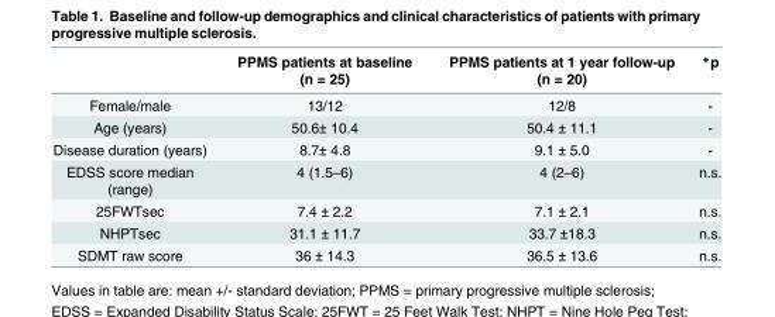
<table><thead><tr><td></td><td>PPMS patients at baseline (n = 25)</td><td>PPMS patients at 1 year follow-up (n = 20)</td><td>*p</td></tr></thead><tbody><tr><td>Female/male</td><td>13/12</td><td>12/8</td><td>-</td></tr><tr><td>Age (years)</td><td>50.6± 10.4</td><td>50.4 ± 11.1</td><td>-</td></tr><tr><td>Disease duration (years)</td><td>8.7± 4.8</td><td>9.1 ± 5.0</td><td>-</td></tr><tr><td>EDSS score median (range)</td><td>4 (1.5–6)</td><td>4 (2–6)</td><td>n.s.</td></tr><tr><td>25FWTsec</td><td>7.4 ± 2.2</td><td>7.1 ± 2.1</td><td>n.s.</td></tr><tr><td>NHPTsec</td><td>31.1 ± 11.7</td><td>33.7 ±18.3</td><td>n.s.</td></tr><tr><td>SDMT raw score</td><td>36 ± 14.3</td><td>36.5 ± 13.6</td><td>n.s.</td></tr></tbody></table>